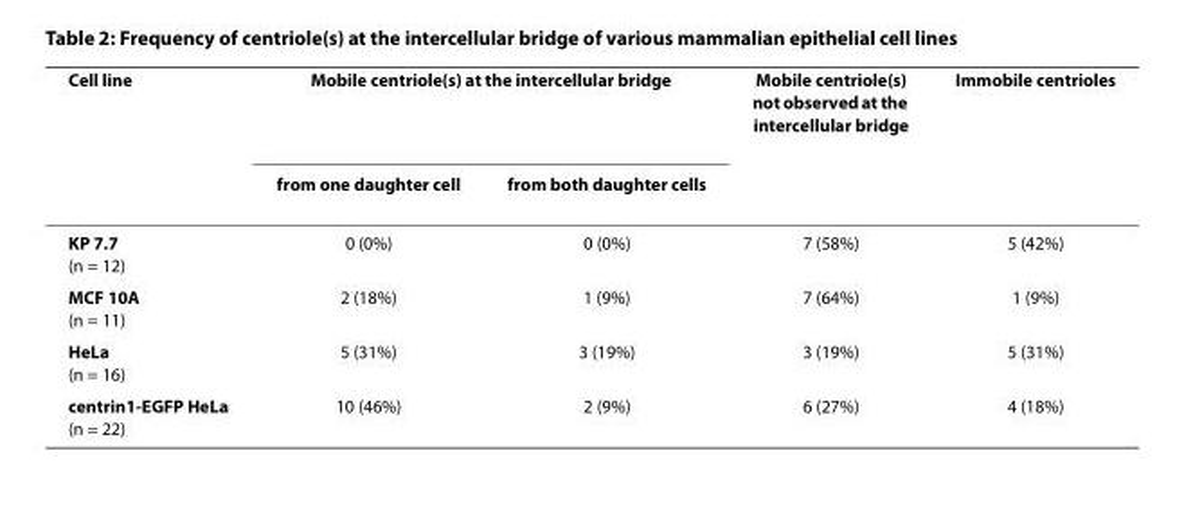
<table><thead><tr><td rowspan="2">Cell line</td><td colspan="2">Mobile centriole(s) at the intercellular bridge</td><td rowspan="2">Mobile centriole(s) not observed at the intercellular bridge</td><td rowspan="2">Immobile centrioles</td></tr><tr><td>from one daughter cell</td><td>from both daughter cells</td></tr></thead><tbody><tr><td>KP 7.7 (n = 12)</td><td>0 (0%)</td><td>0 (0%)</td><td>7 (58%)</td><td>5 (42%)</td></tr><tr><td>MCF 10A (n = 11)</td><td>2 (18%)</td><td>1 (9%)</td><td>7 (64%)</td><td>1 (9%)</td></tr><tr><td>HeLa (n = 16)</td><td>5 (31%)</td><td>3 (19%)</td><td>3 (19%)</td><td>5 (31%)</td></tr><tr><td>centrin1-EGFP HeLa (n = 22)</td><td>10 (46%)</td><td>2 (9%)</td><td>6 (27%)</td><td>4 (18%)</td></tr></tbody></table>